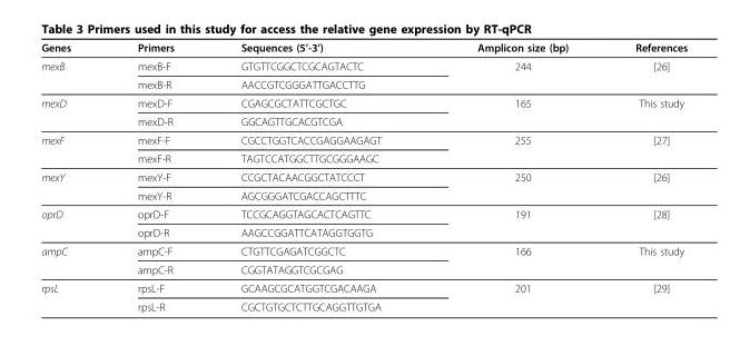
<table><thead><tr><td>Genes</td><td>Primers</td><td>Sequences (5’-3’)</td><td>Amplicon size (bp)</td><td>References</td></tr></thead><tbody><tr><td rowspan="2">mexB</td><td>mexB-F</td><td>GTGTTCGGCTCGCAGTACTC</td><td>244</td><td>[26]</td></tr><tr><td>mexB-R</td><td>AACCGTCGGGATTGACCTTG</td><td></td><td></td></tr><tr><td rowspan="2">mexD</td><td>mexD-F</td><td>CGAGCGCTATTCGCTGC</td><td>165</td><td>This study</td></tr><tr><td>mexD-R</td><td>GGCAGTTGCACGTCGA</td><td></td><td></td></tr><tr><td rowspan="2">mexF</td><td>mexF-F</td><td>CGCCTGGTCACCGAGGAAGAGT</td><td>255</td><td>[27]</td></tr><tr><td>mexF-R</td><td>TAGTCCATGGCTTGCGGGAAGC</td><td></td><td></td></tr><tr><td rowspan="2">mexY</td><td>mexY-F</td><td>CCGCTACAACGGCTATCCCT</td><td>250</td><td>[26]</td></tr><tr><td>mexY-R</td><td>AGCGGGATCGACCAGCTTTC</td><td></td><td></td></tr><tr><td rowspan="2">oprD</td><td>oprD-F</td><td>TCCGCAGGTAGCACTCAGTTC</td><td>191</td><td>[28]</td></tr><tr><td>oprD-R</td><td>AAGCCGGATTCATAGGTGGTG</td><td></td><td></td></tr><tr><td rowspan="2">ampC</td><td>ampC-F</td><td>CTGTTCGAGATCGGCTC</td><td>166</td><td>This study</td></tr><tr><td>ampC-R</td><td>CGGTATAGGTCGCGAG</td><td></td><td></td></tr><tr><td rowspan="2">rpsL</td><td>rpsL-F</td><td>GCAAGCGCATGGTCGACAAGA</td><td>201</td><td>[29]</td></tr><tr><td>rpsL-R</td><td>CGCTGTGCTCTTGCAGGTTGTGA</td><td></td><td></td></tr></tbody></table>